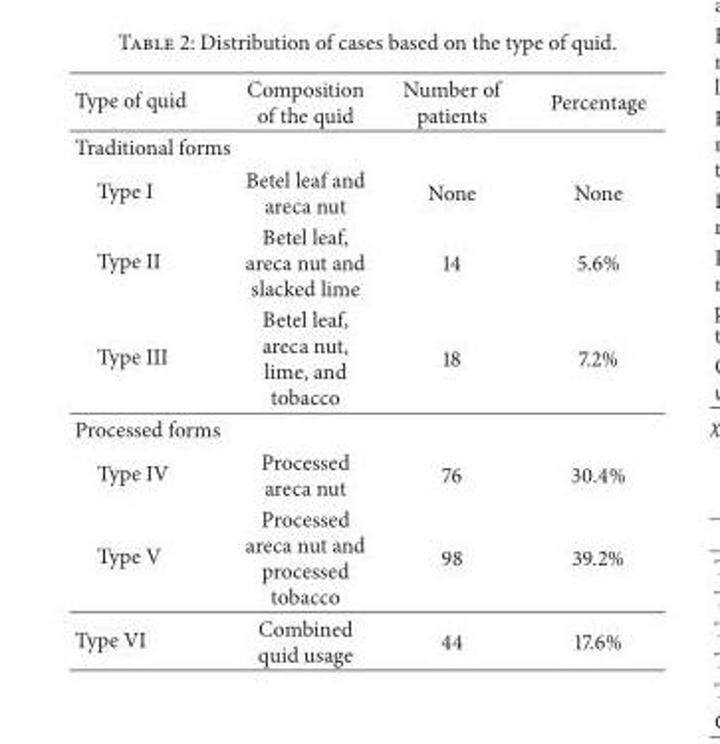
<table><thead><tr><td>Type of quid</td><td>Composition of the quid</td><td>Number of patients</td><td>Percentage</td></tr></thead><tbody><tr><td colspan="4">Traditional forms</td></tr><tr><td>Type I</td><td>Betel leaf and areca nut</td><td>None</td><td>None</td></tr><tr><td>Type II</td><td>Betel leaf, areca nut and slacked lime</td><td>14</td><td>5.6%</td></tr><tr><td>Type III</td><td>Betel leaf, areca nut, lime, and tobacco</td><td>18</td><td>7.2%</td></tr><tr><td colspan="4">Processed forms</td></tr><tr><td>Type IV</td><td>Processed areca nut</td><td>76</td><td>30.4%</td></tr><tr><td>Type V</td><td>Processed areca nut and processed tobacco</td><td>98</td><td>39.2%</td></tr><tr><td>Type VI</td><td>Combined quid usage</td><td>44</td><td>17.6%</td></tr></tbody></table>